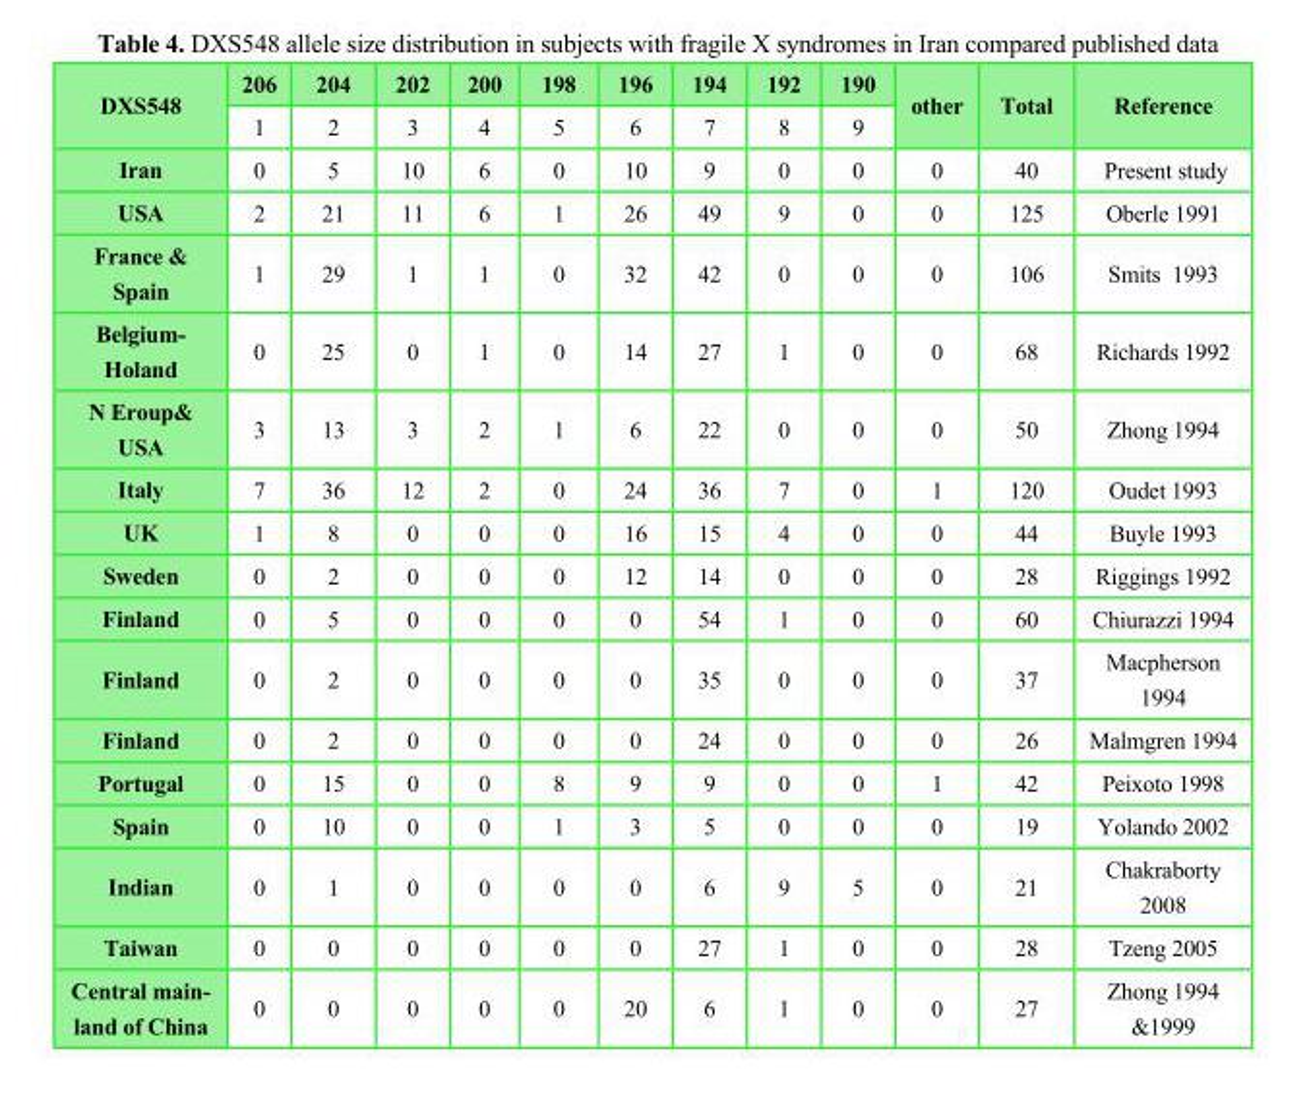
<table><thead><tr><td rowspan="2">DXS548</td><td rowspan="2">206 1</td><td rowspan="2">204 2</td><td rowspan="2">202 3</td><td rowspan="2">200 4</td><td rowspan="2">198 5</td><td rowspan="2">196 6</td><td rowspan="2">194 7</td><td rowspan="2">192 8</td><td rowspan="2">190 9</td><td rowspan="2">other</td><td rowspan="2">Total</td><td rowspan="2">Reference</td></tr><tr></tr></thead><tbody><tr><td>Iran</td><td>0</td><td>5</td><td>10</td><td>6</td><td>0</td><td>10</td><td>9</td><td>0</td><td>0</td><td>0</td><td>40</td><td>Present study</td></tr><tr><td>USA</td><td>2</td><td>21</td><td>11</td><td>6</td><td>1</td><td>26</td><td>49</td><td>9</td><td>0</td><td>0</td><td>125</td><td>Oberle 1991</td></tr><tr><td>France &amp; Spain</td><td>1</td><td>29</td><td>1</td><td>1</td><td>0</td><td>32</td><td>42</td><td>0</td><td>0</td><td>0</td><td>106</td><td>Smits 1993</td></tr><tr><td>Belgium- Holand</td><td>0</td><td>25</td><td>0</td><td>1</td><td>0</td><td>14</td><td>27</td><td>1</td><td>0</td><td>0</td><td>68</td><td>Richards 1992</td></tr><tr><td>N Eroup&amp; USA</td><td>3</td><td>13</td><td>3</td><td>2</td><td>1</td><td>6</td><td>22</td><td>0</td><td>0</td><td>0</td><td>50</td><td>Zhong 1994</td></tr><tr><td>Italy</td><td>7</td><td>36</td><td>12</td><td>2</td><td>0</td><td>24</td><td>36</td><td>7</td><td>0</td><td>1</td><td>120</td><td>Oudet 1993</td></tr><tr><td>UK</td><td>1</td><td>8</td><td>0</td><td>0</td><td>0</td><td>16</td><td>15</td><td>4</td><td>0</td><td>0</td><td>44</td><td>Buyle 1993</td></tr><tr><td>Sweden</td><td>0</td><td>2</td><td>0</td><td>0</td><td>0</td><td>12</td><td>14</td><td>0</td><td>0</td><td>0</td><td>28</td><td>Riggings 1992</td></tr><tr><td>Finland</td><td>0</td><td>5</td><td>0</td><td>0</td><td>0</td><td>0</td><td>54</td><td>1</td><td>0</td><td>0</td><td>60</td><td>Chiurazzi 1994</td></tr><tr><td>Finland</td><td>0</td><td>2</td><td>0</td><td>0</td><td>0</td><td>0</td><td>35</td><td>0</td><td>0</td><td>0</td><td>37</td><td>Macpherson 1994</td></tr><tr><td>Finland</td><td>0</td><td>2</td><td>0</td><td>0</td><td>0</td><td>0</td><td>24</td><td>0</td><td>0</td><td>0</td><td>26</td><td>Malmgren 1994</td></tr><tr><td>Portugal</td><td>0</td><td>15</td><td>0</td><td>0</td><td>8</td><td>9</td><td>9</td><td>0</td><td>0</td><td>1</td><td>42</td><td>Peixoto 1998</td></tr><tr><td>Spain</td><td>0</td><td>10</td><td>0</td><td>0</td><td>1</td><td>3</td><td>5</td><td>0</td><td>0</td><td>0</td><td>19</td><td>Yolando 2002</td></tr><tr><td>Indian</td><td>0</td><td>1</td><td>0</td><td>0</td><td>0</td><td>0</td><td>6</td><td>9</td><td>5</td><td>0</td><td>21</td><td>Chakraborty 2008</td></tr><tr><td>Taiwan</td><td>0</td><td>0</td><td>0</td><td>0</td><td>0</td><td>0</td><td>27</td><td>1</td><td>0</td><td>0</td><td>28</td><td>Tzeng 2005</td></tr><tr><td>Central main- land of China</td><td>0</td><td>0</td><td>0</td><td>0</td><td>0</td><td>20</td><td>6</td><td>1</td><td>0</td><td>0</td><td>27</td><td>Zhong 1994 &amp;1999</td></tr></tbody></table>